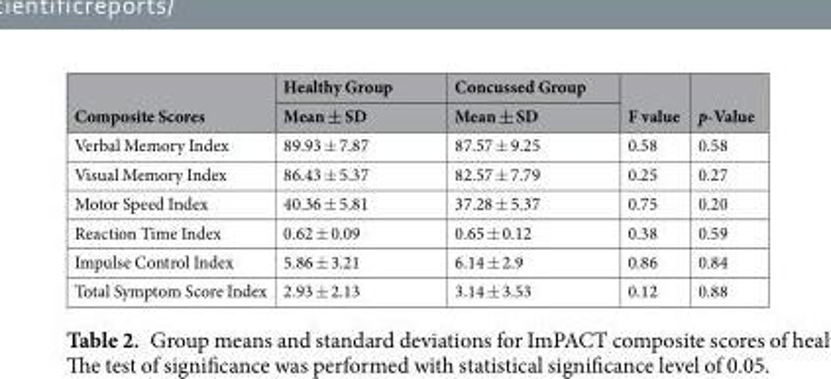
<table><thead><tr><td rowspan="2">Composite Scores</td><td rowspan="2">Healthy Group Mean ± SD</td><td rowspan="2">Concussed Group Mean ± SD</td><td rowspan="2">F value</td><td rowspan="2">p-Value</td></tr><tr></tr></thead><tbody><tr><td>Verbal Memory Index</td><td>89.93 ± 7.87</td><td>87.57 ± 9.25</td><td>0.58</td><td>0.58</td></tr><tr><td>Visual Memory Index</td><td>86.43 ± 5.37</td><td>82.57 ± 7.79</td><td>0.25</td><td>0.27</td></tr><tr><td>Motor Speed Index</td><td>40.36 ± 5.81</td><td>37.28 ± 5.37</td><td>0.75</td><td>0.20</td></tr><tr><td>Reaction Time Index</td><td>0.62 ± 0.09</td><td>0.65 ± 0.12</td><td>0.38</td><td>0.59</td></tr><tr><td>Impulse Control Index</td><td>5.86 ± 3.21</td><td>6.14 ± 2.9</td><td>0.86</td><td>0.84</td></tr><tr><td>Total Symptom Score Index</td><td>2.93 ± 2.13</td><td>3.14 ± 3.53</td><td>0.12</td><td>0.88</td></tr></tbody></table>